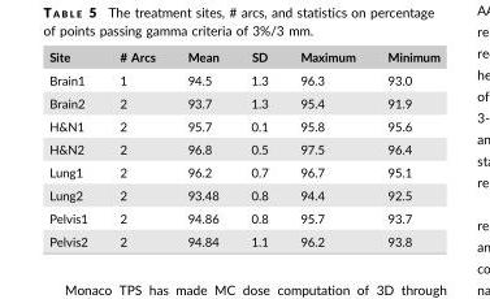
<table><thead><tr><td>Site</td><td># Arcs</td><td>Mean</td><td>SD</td><td>Maximum</td><td>Minimum</td></tr></thead><tbody><tr><td>Brain1</td><td>1</td><td>94.5</td><td>1.3</td><td>96.3</td><td>93.0</td></tr><tr><td>Brain2</td><td>2</td><td>93.7</td><td>1.3</td><td>95.4</td><td>91.9</td></tr><tr><td>H&amp;N1</td><td>2</td><td>95.7</td><td>0.1</td><td>95.8</td><td>95.6</td></tr><tr><td>H&amp;N2</td><td>2</td><td>96.8</td><td>0.5</td><td>97.5</td><td>96.4</td></tr><tr><td>Lung1</td><td>2</td><td>96.2</td><td>0.7</td><td>96.7</td><td>95.1</td></tr><tr><td>Lung2</td><td>2</td><td>93.48</td><td>0.8</td><td>94.4</td><td>92.5</td></tr><tr><td>Pelvis1</td><td>2</td><td>94.86</td><td>0.8</td><td>95.7</td><td>93.7</td></tr><tr><td>Pelvis2</td><td>2</td><td>94.84</td><td>1.1</td><td>96.2</td><td>93.8</td></tr></tbody></table>